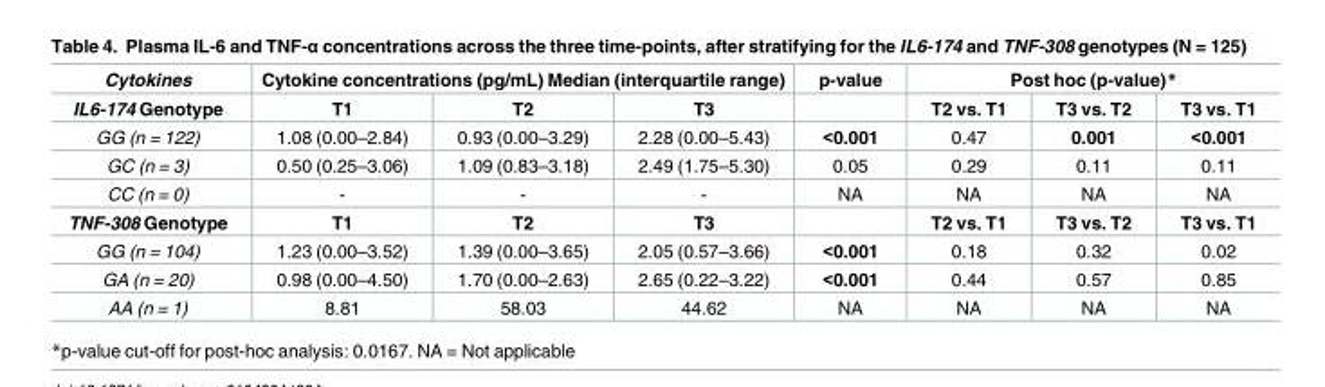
<table><thead><tr><td rowspan="2">Cytokines IL6-174 Genotype</td><td colspan="3">Cytokine concentrations (pg/mL) Median (interquartile range)</td><td rowspan="2">p-value</td><td colspan="3">Post hoc (p-value)*</td></tr><tr><td>T1</td><td>T2</td><td>T3</td><td>T2 vs. T1</td><td>T3 vs. T2</td><td>T3 vs. T1</td></tr></thead><tbody><tr><td>GG (n = 122)</td><td>1.08 (0.00–2.84)</td><td>0.93 (0.00–3.29)</td><td>2.28 (0.00–5.43)</td><td>&lt;0.001</td><td>0.47</td><td>0.001</td><td>&lt;0.001</td></tr><tr><td>GC (n = 3)</td><td>0.50 (0.25–3.06)</td><td>1.09 (0.83–3.18)</td><td>2.49 (1.75–5.30)</td><td>0.05</td><td>0.29</td><td>0.11</td><td>0.11</td></tr><tr><td>CC (n = 0)</td><td>-</td><td>-</td><td>-</td><td>NA</td><td>NA</td><td>NA</td><td>NA</td></tr><tr><td>TNF-308 Genotype</td><td>T1</td><td>T2</td><td>T3</td><td></td><td>T2 vs. T1</td><td>T3 vs. T2</td><td>T3 vs. T1</td></tr><tr><td>GG (n = 104)</td><td>1.23 (0.00–3.52)</td><td>1.39 (0.00–3.65)</td><td>2.05 (0.57–3.66)</td><td>&lt;0.001</td><td>0.18</td><td>0.32</td><td>0.02</td></tr><tr><td>GA (n = 20)</td><td>0.98 (0.00–4.50)</td><td>1.70 (0.00–2.63)</td><td>2.65 (0.22–3.22)</td><td>&lt;0.001</td><td>0.44</td><td>0.57</td><td>0.85</td></tr><tr><td>AA (n = 1)</td><td>8.81</td><td>58.03</td><td>44.62</td><td>NA</td><td>NA</td><td>NA</td><td>NA</td></tr></tbody></table>